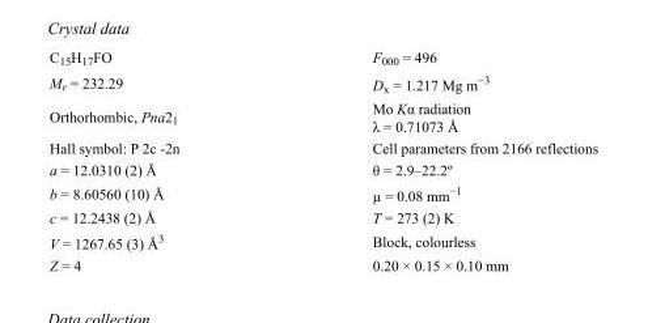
<table><tbody><tr><td>C<sub>15</sub>H<sub>17</sub>FO</td><td>F<sub>000</sub> = 496</td></tr><tr><td>M<sub>r</sub> = 232.29</td><td>D<sub>x</sub> = 1.217 Mg m<sup>−3</sup></td></tr><tr><td>Orthorhombic, Pna2<sub>1</sub></td><td>Mo Kα radiation λ = 0.71073 Å</td></tr><tr><td>Hall symbol: P 2c -2n</td><td>Cell parameters from 2166 reflections</td></tr><tr><td>a = 12.0310 (2) Å</td><td>θ = 2.9–22.2º</td></tr><tr><td>b = 8.60560 (10) Å</td><td>µ = 0.08 mm<sup>−1</sup></td></tr><tr><td>c = 12.2438 (2) Å</td><td>T = 273 (2) K</td></tr><tr><td>V = 1267.65 (3) Å<sup>3</sup></td><td>Block, colourless</td></tr><tr><td>Z = 4</td><td>0.20 × 0.15 × 0.10 mm</td></tr></tbody></table>